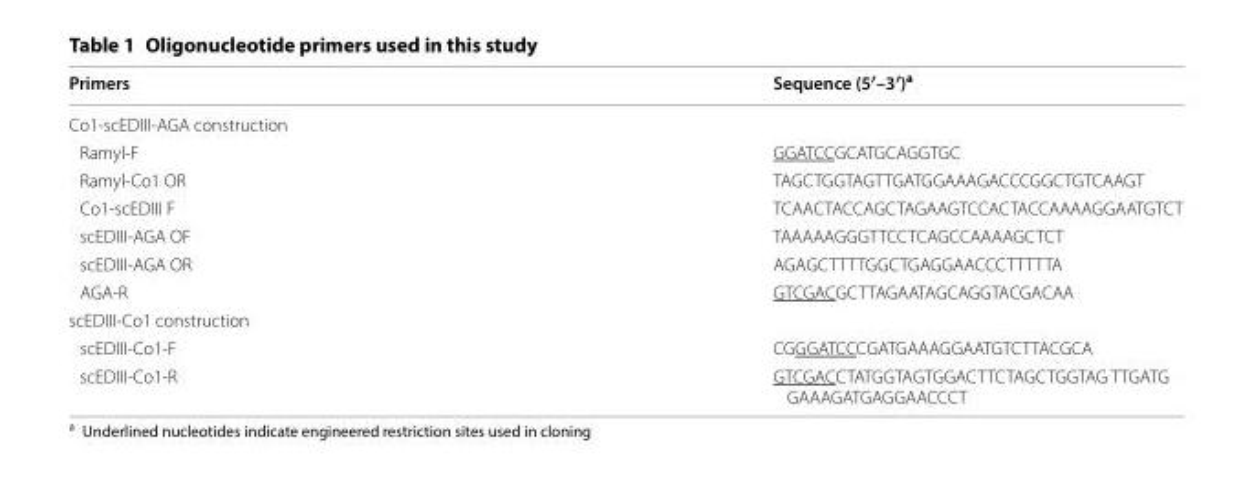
<table><thead><tr><td>Primers</td><td>Sequence (5′–3′)<sup>a</sup></td></tr></thead><tbody><tr><td colspan="2">Co1‑scEDIII‑AGA construction</td></tr><tr><td>Ramyl‑F</td><td>GGA TCC GCA TGC AGG TGC</td></tr><tr><td>Ramyl‑Co1 OR</td><td>TAG CTG GTA GTT GAT GGA AAG ACC CGG CTG TCA AGT</td></tr><tr><td>Co1‑scEDIII F</td><td>TCA ACT ACC AGC TAG AAG TCC ACT ACC AAA AGG AAT GTCT</td></tr><tr><td>scEDIII‑AGA OF</td><td>TAA AAA GGG TTC CTC AGC CAA AAG CTCT</td></tr><tr><td>scEDIII‑AGA OR</td><td>AGA GCT TTT GGC TGA GGA ACC CTT TTTA</td></tr><tr><td>AGA‑R</td><td>GTC GAC GCT TAG AAT AGC AGG TAC GACAA</td></tr><tr><td colspan="2">scEDIII‑Co1 construction</td></tr><tr><td>scEDIII‑Co1‑F</td><td>CGGGA TCC CGA TGA AAG GAA TGT CTT ACGCA</td></tr><tr><td>scEDIII‑Co1‑R</td><td>GTC GAC CTA TGG TAG TGG ACT TCT AGC TGG TAG TTG ATG GAA AGA TGA GGA ACCCT</td></tr></tbody></table>